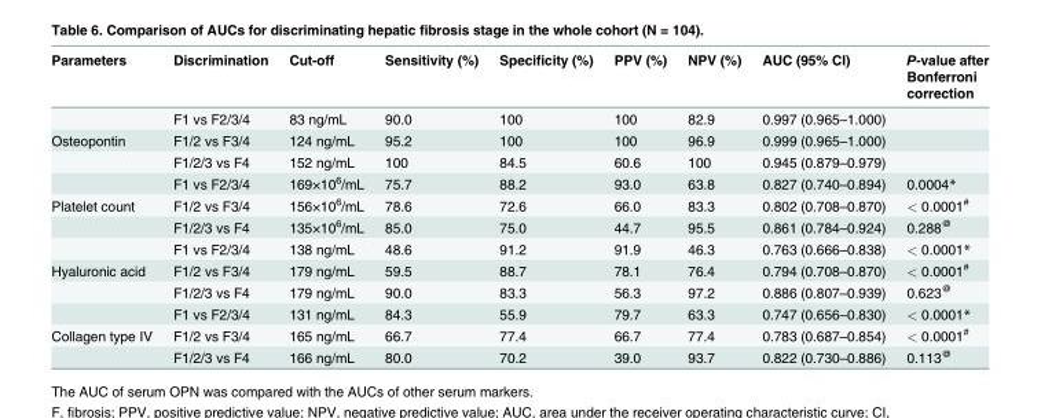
<table><thead><tr><td>Parameters</td><td>Discrimination</td><td>Cut-off</td><td>Sensitivity (%)</td><td>Specificity (%)</td><td>PPV (%)</td><td>NPV (%)</td><td>AUC (95% CI)</td><td>P-value after Bonferroni correction</td></tr></thead><tbody><tr><td></td><td>F1 vs F2/3/4</td><td>83 ng/mL</td><td>90.0</td><td>100</td><td>100</td><td>82.9</td><td>0.997 (0.965–1.000)</td><td></td></tr><tr><td rowspan="3">Osteopontin</td><td>F1/2 vs F3/4</td><td>124 ng/mL</td><td>95.2</td><td>100</td><td>100</td><td>96.9</td><td>0.999 (0.965–1.000)</td><td></td></tr><tr><td>F1/2/3 vs F4</td><td>152 ng/mL</td><td>100</td><td>84.5</td><td>60.6</td><td>100</td><td>0.945 (0.879–0.979)</td><td></td></tr><tr><td>F1 vs F2/3/4</td><td>169×10<sup>6</sup>/mL</td><td>75.7</td><td>88.2</td><td>93.0</td><td>63.8</td><td>0.827 (0.740–0.894)</td><td>0.0004*</td></tr><tr><td rowspan="3">Platelet count</td><td>F1/2 vs F3/4</td><td>156×10<sup>6</sup>/mL</td><td>78.6</td><td>72.6</td><td>66.0</td><td>83.3</td><td>0.802 (0.708–0.870)</td><td>&lt; 0.0001<sup>#</sup></td></tr><tr><td>F1/2/3 vs F4</td><td>135×10<sup>6</sup>/mL</td><td>85.0</td><td>75.0</td><td>44.7</td><td>95.5</td><td>0.861 (0.784–0.924)</td><td>0.288<sup>@</sup></td></tr><tr><td>F1 vs F2/3/4</td><td>138 ng/mL</td><td>48.6</td><td>91.2</td><td>91.9</td><td>46.3</td><td>0.763 (0.666–0.838)</td><td>&lt; 0.0001*</td></tr><tr><td rowspan="3">Hyaluronic acid</td><td>F1/2 vs F3/4</td><td>179 ng/mL</td><td>59.5</td><td>88.7</td><td>78.1</td><td>76.4</td><td>0.794 (0.708–0.870)</td><td>&lt; 0.0001<sup>#</sup></td></tr><tr><td>F1/2/3 vs F4</td><td>179 ng/mL</td><td>90.0</td><td>83.3</td><td>56.3</td><td>97.2</td><td>0.886 (0.807–0.939)</td><td>0.623<sup>@</sup></td></tr><tr><td>F1 vs F2/3/4</td><td>131 ng/mL</td><td>84.3</td><td>55.9</td><td>79.7</td><td>63.3</td><td>0.747 (0.656–0.830)</td><td>&lt; 0.0001*</td></tr><tr><td rowspan="2">Collagen type IV</td><td>F1/2 vs F3/4</td><td>165 ng/mL</td><td>66.7</td><td>77.4</td><td>66.7</td><td>77.4</td><td>0.783 (0.687–0.854)</td><td>&lt; 0.0001<sup>#</sup></td></tr><tr><td>F1/2/3 vs F4</td><td>166 ng/mL</td><td>80.0</td><td>70.2</td><td>39.0</td><td>93.7</td><td>0.822 (0.730–0.886)</td><td>0.113<sup>@</sup></td></tr></tbody></table>